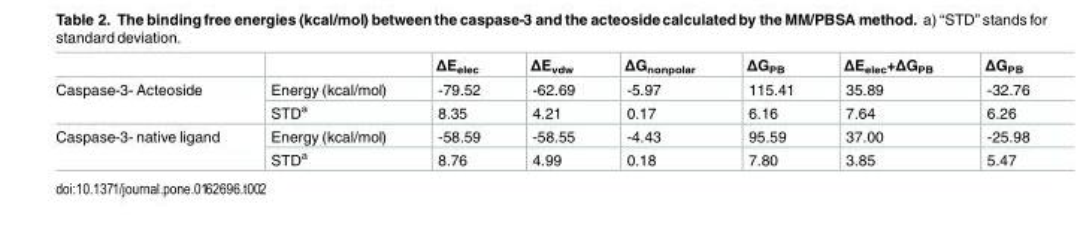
<table><thead><tr><td></td><td></td><td>ΔE<sub>elec</sub></td><td>ΔE<sub>vdw</sub></td><td>ΔG<sub>nonpolar</sub></td><td>ΔG<sub>PB</sub></td><td>ΔE<sub>elec</sub>+ΔG<sub>PB</sub></td><td>ΔG<sub>PB</sub></td></tr></thead><tbody><tr><td rowspan="2">Caspase-3- Acteoside</td><td>Energy (kcal/mol)</td><td>-79.52</td><td>-62.69</td><td>-5.97</td><td>115.41</td><td>35.89</td><td>-32.76</td></tr><tr><td>STD<sup>a</sup></td><td>8.35</td><td>4.21</td><td>0.17</td><td>6.16</td><td>7.64</td><td>6.26</td></tr><tr><td rowspan="2">Caspase-3- native ligand</td><td>Energy (kcal/mol)</td><td>-58.59</td><td>-58.55</td><td>-4.43</td><td>95.59</td><td>37.00</td><td>-25.98</td></tr><tr><td>STD<sup>a</sup></td><td>8.76</td><td>4.99</td><td>0.18</td><td>7.80</td><td>3.85</td><td>5.47</td></tr></tbody></table>